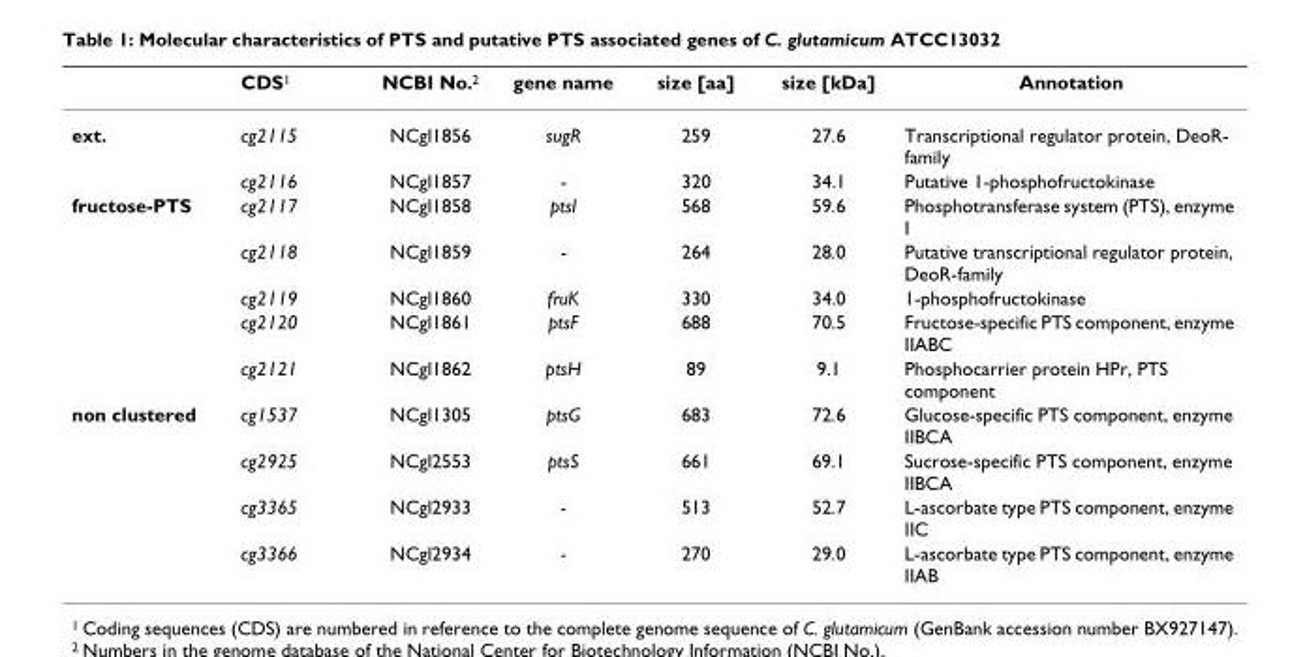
<table><thead><tr><td></td><td>CDS<sup>1</sup></td><td>NCBI No.<sup>2</sup></td><td>gene name</td><td>size [aa]</td><td>size [kDa]</td><td>Annotation</td></tr></thead><tbody><tr><td rowspan="2">ext.</td><td>cg2115</td><td>NCgl1856</td><td>sugR</td><td>259</td><td>27.6</td><td>Transcriptional regulator protein, DeoR- family</td></tr><tr><td>cg2116</td><td>NCgl1857</td><td>-</td><td>320</td><td>34.1</td><td>Putative 1-phosphofructokinase</td></tr><tr><td rowspan="5">fructose-PTS</td><td>cg2117</td><td>NCgl1858</td><td>ptsI</td><td>568</td><td>59.6</td><td>Phosphotransferase system (PTS), enzyme I</td></tr><tr><td>cg2118</td><td>NCgl1859</td><td>-</td><td>264</td><td>28.0</td><td>Putative transcriptional regulator protein, DeoR-family</td></tr><tr><td>cg2119</td><td>NCgl1860</td><td>fruK</td><td>330</td><td>34.0</td><td>1-phosphofructokinase</td></tr><tr><td>cg2120</td><td>NCgl1861</td><td>ptsF</td><td>688</td><td>70.5</td><td>Fructose-specific PTS component, enzyme IIABC</td></tr><tr><td>cg2121</td><td>NCgl1862</td><td>ptsH</td><td>89</td><td>9.1</td><td>Phosphocarrier protein HPr, PTS component</td></tr><tr><td rowspan="4">non clustered</td><td>cg1537</td><td>NCgl1305</td><td>ptsG</td><td>683</td><td>72.6</td><td>Glucose-specific PTS component, enzyme IIBCA</td></tr><tr><td>cg2925</td><td>NCgl2553</td><td>ptsS</td><td>661</td><td>69.1</td><td>Sucrose-specific PTS component, enzyme IIBCA</td></tr><tr><td>cg3365</td><td>NCgl2933</td><td>-</td><td>513</td><td>52.7</td><td>L-ascorbate type PTS component, enzyme IIC</td></tr><tr><td>cg3366</td><td>NCgl2934</td><td>-</td><td>270</td><td>29.0</td><td>L-ascorbate type PTS component, enzyme IIAB</td></tr></tbody></table>